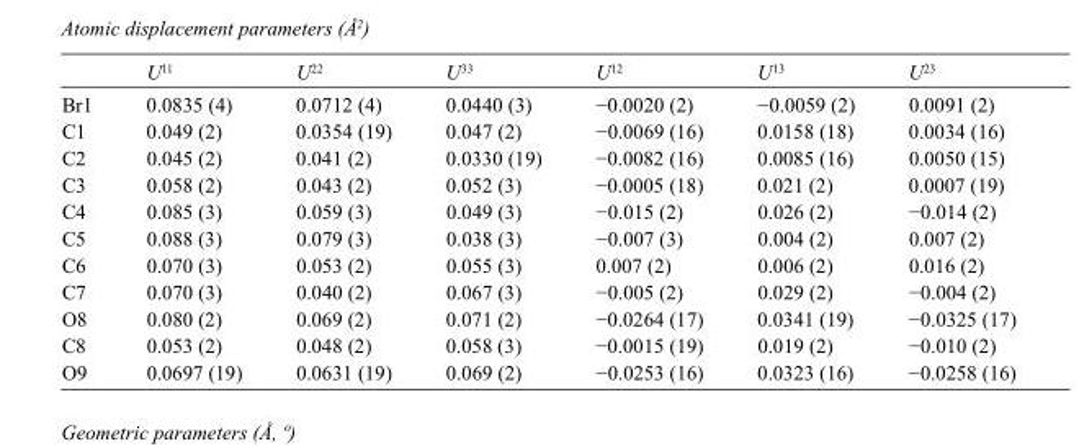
<table><thead><tr><td></td><td>U<sup>11</sup></td><td>U<sup>22</sup></td><td>U<sup>33</sup></td><td>U<sup>12</sup></td><td>U<sup>13</sup></td><td>U<sup>23</sup></td></tr></thead><tbody><tr><td>Br1</td><td>0.0835 (4)</td><td>0.0712 (4)</td><td>0.0440 (3)</td><td>−0.0020 (2)</td><td>−0.0059 (2)</td><td>0.0091 (2)</td></tr><tr><td>C1</td><td>0.049 (2)</td><td>0.0354 (19)</td><td>0.047 (2)</td><td>−0.0069 (16)</td><td>0.0158 (18)</td><td>0.0034 (16)</td></tr><tr><td>C2</td><td>0.045 (2)</td><td>0.041 (2)</td><td>0.0330 (19)</td><td>−0.0082 (16)</td><td>0.0085 (16)</td><td>0.0050 (15)</td></tr><tr><td>C3</td><td>0.058 (2)</td><td>0.043 (2)</td><td>0.052 (3)</td><td>−0.0005 (18)</td><td>0.021 (2)</td><td>0.0007 (19)</td></tr><tr><td>C4</td><td>0.085 (3)</td><td>0.059 (3)</td><td>0.049 (3)</td><td>−0.015 (2)</td><td>0.026 (2)</td><td>−0.014 (2)</td></tr><tr><td>C5</td><td>0.088 (3)</td><td>0.079 (3)</td><td>0.038 (3)</td><td>−0.007 (3)</td><td>0.004 (2)</td><td>0.007 (2)</td></tr><tr><td>C6</td><td>0.070 (3)</td><td>0.053 (2)</td><td>0.055 (3)</td><td>0.007 (2)</td><td>0.006 (2)</td><td>0.016 (2)</td></tr><tr><td>C7</td><td>0.070 (3)</td><td>0.040 (2)</td><td>0.067 (3)</td><td>−0.005 (2)</td><td>0.029 (2)</td><td>−0.004 (2)</td></tr><tr><td>O8</td><td>0.080 (2)</td><td>0.069 (2)</td><td>0.071 (2)</td><td>−0.0264 (17)</td><td>0.0341 (19)</td><td>−0.0325 (17)</td></tr><tr><td>C8</td><td>0.053 (2)</td><td>0.048 (2)</td><td>0.058 (3)</td><td>−0.0015 (19)</td><td>0.019 (2)</td><td>−0.010 (2)</td></tr><tr><td>O9</td><td>0.0697 (19)</td><td>0.0631 (19)</td><td>0.069 (2)</td><td>−0.0253 (16)</td><td>0.0323 (16)</td><td>−0.0258 (16)</td></tr></tbody></table>